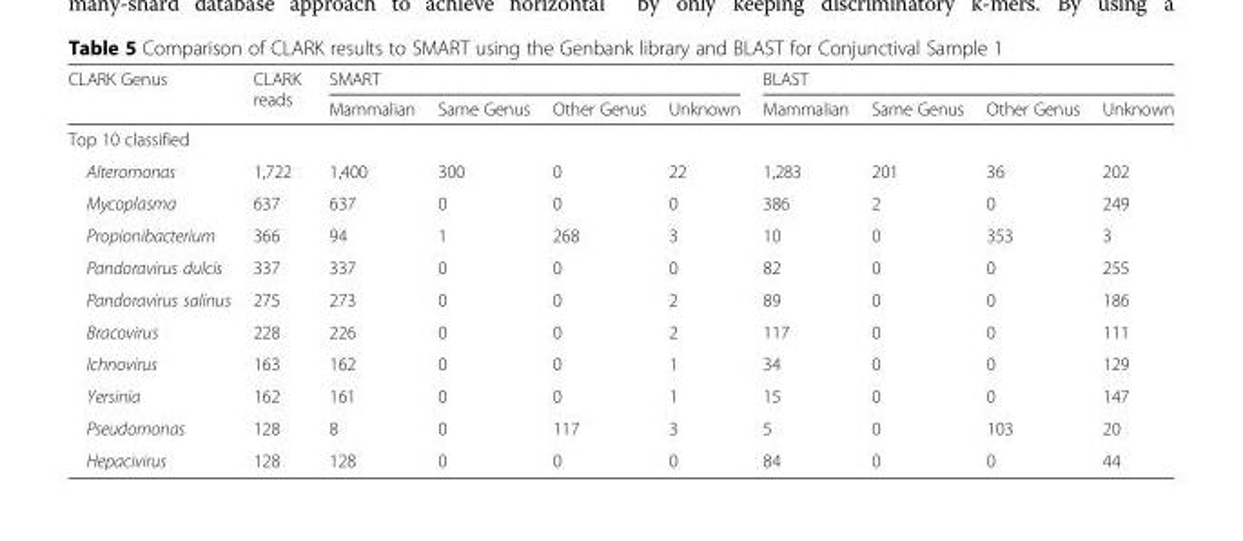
<table><thead><tr><td rowspan="2">CLARK Genus</td><td rowspan="2">CLARK reads</td><td colspan="4">SMART</td><td colspan="4">BLAST</td></tr><tr><td>Mammalian</td><td>Same Genus</td><td>Other Genus</td><td>Unknown</td><td>Mammalian</td><td>Same Genus</td><td>Other Genus</td><td>Unknown</td></tr></thead><tbody><tr><td colspan="10">Top 10 classified</td></tr><tr><td>Alteromonas</td><td>1,722</td><td>1,400</td><td>300</td><td>0</td><td>22</td><td>1,283</td><td>201</td><td>36</td><td>202</td></tr><tr><td>Mycoplasma</td><td>637</td><td>637</td><td>0</td><td>0</td><td>0</td><td>386</td><td>2</td><td>0</td><td>249</td></tr><tr><td>Propionibacterium</td><td>366</td><td>94</td><td>1</td><td>268</td><td>3</td><td>10</td><td>0</td><td>353</td><td>3</td></tr><tr><td>Pandoravirus dulcis</td><td>337</td><td>337</td><td>0</td><td>0</td><td>0</td><td>82</td><td>0</td><td>0</td><td>255</td></tr><tr><td>Pandoravirus salinus</td><td>275</td><td>273</td><td>0</td><td>0</td><td>2</td><td>89</td><td>0</td><td>0</td><td>186</td></tr><tr><td>Bracovirus</td><td>228</td><td>226</td><td>0</td><td>0</td><td>2</td><td>117</td><td>0</td><td>0</td><td>111</td></tr><tr><td>Ichnovirus</td><td>163</td><td>162</td><td>0</td><td>0</td><td>1</td><td>34</td><td>0</td><td>0</td><td>129</td></tr><tr><td>Yersinia</td><td>162</td><td>161</td><td>0</td><td>0</td><td>1</td><td>15</td><td>0</td><td>0</td><td>147</td></tr><tr><td>Pseudomonas</td><td>128</td><td>8</td><td>0</td><td>117</td><td>3</td><td>5</td><td>0</td><td>103</td><td>20</td></tr><tr><td>Hepacivirus</td><td>128</td><td>128</td><td>0</td><td>0</td><td>0</td><td>84</td><td>0</td><td>0</td><td>44</td></tr></tbody></table>